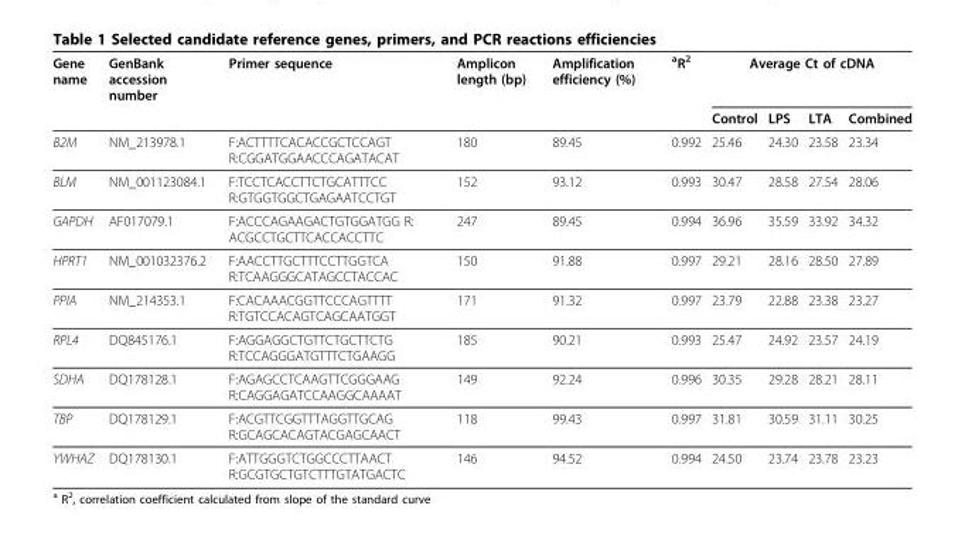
<table><thead><tr><td rowspan="2">Gene name</td><td rowspan="2">GenBank accession number</td><td rowspan="2">Primer sequence</td><td rowspan="2">Amplicon length (bp)</td><td rowspan="2">Amplification efficiency (%)</td><td rowspan="2"><sup>a</sup>R<sup>2</sup></td><td colspan="4">Average Ct of cDNA</td></tr><tr><td>Control</td><td>LPS</td><td>LTA</td><td>Combined</td></tr></thead><tbody><tr><td>B2M</td><td>NM_213978.1</td><td>F:ACTTTTCACACCGCTCCAGT R:CGGATGGAACCCAGATACAT</td><td>180</td><td>89.45</td><td>0.992</td><td>25.46</td><td>24.30</td><td>23.58</td><td>23.34</td></tr><tr><td>BLM</td><td>NM_001123084.1</td><td>F:TCCTCACCTTCTGCATTTCC R:GTGGTGGCTGAGAATCCTGT</td><td>152</td><td>93.12</td><td>0.993</td><td>30.47</td><td>28.58</td><td>27.54</td><td>28.06</td></tr><tr><td>GAPDH</td><td>AF017079.1</td><td>F:ACCCAGAAGACTGTGGATGG R: ACGCCTGCTTCACCACCTTC</td><td>247</td><td>89.45</td><td>0.994</td><td>36.96</td><td>35.59</td><td>33.92</td><td>34.32</td></tr><tr><td>HPRT1</td><td>NM_001032376.2</td><td>F:AACCTTGCTTTCCTTGGTCA R:TCAAGGGCATAGCCTACCAC</td><td>150</td><td>91.88</td><td>0.997</td><td>29.21</td><td>28.16</td><td>28.50</td><td>27.89</td></tr><tr><td>PPIA</td><td>NM_214353.1</td><td>F:CACAAACGGTTCCCAGTTTT R:TGTCCACAGTCAGCAATGGT</td><td>171</td><td>91.32</td><td>0.997</td><td>23.79</td><td>22.88</td><td>23.38</td><td>23.27</td></tr><tr><td>RPL4</td><td>DQ845176.1</td><td>F:AGGAGGCTGTTCTGCTTCTG R:TCCAGGGATGTTTCTGAAGG</td><td>185</td><td>90.21</td><td>0.993</td><td>25.47</td><td>24.92</td><td>23.57</td><td>24.19</td></tr><tr><td>SDHA</td><td>DQ178128.1</td><td>F:AGAGCCTCAAGTTCGGGAAG R:CAGGAGATCCAAGGCAAAAT</td><td>149</td><td>92.24</td><td>0.996</td><td>30.35</td><td>29.28</td><td>28.21</td><td>28.11</td></tr><tr><td>TBP</td><td>DQ178129.1</td><td>F:ACGTTCGGTTTAGGTTGCAG R:GCAGCACAGTACGAGCAACT</td><td>118</td><td>99.43</td><td>0.997</td><td>31.81</td><td>30.59</td><td>31.11</td><td>30.25</td></tr><tr><td>YWHAZ</td><td>DQ178130.1</td><td>F:ATTGGGTCTGGCCCTTAACT R:GCGTGCTGTCTTTGTATGACTC</td><td>146</td><td>94.52</td><td>0.994</td><td>24.50</td><td>23.74</td><td>23.78</td><td>23.23</td></tr></tbody></table>